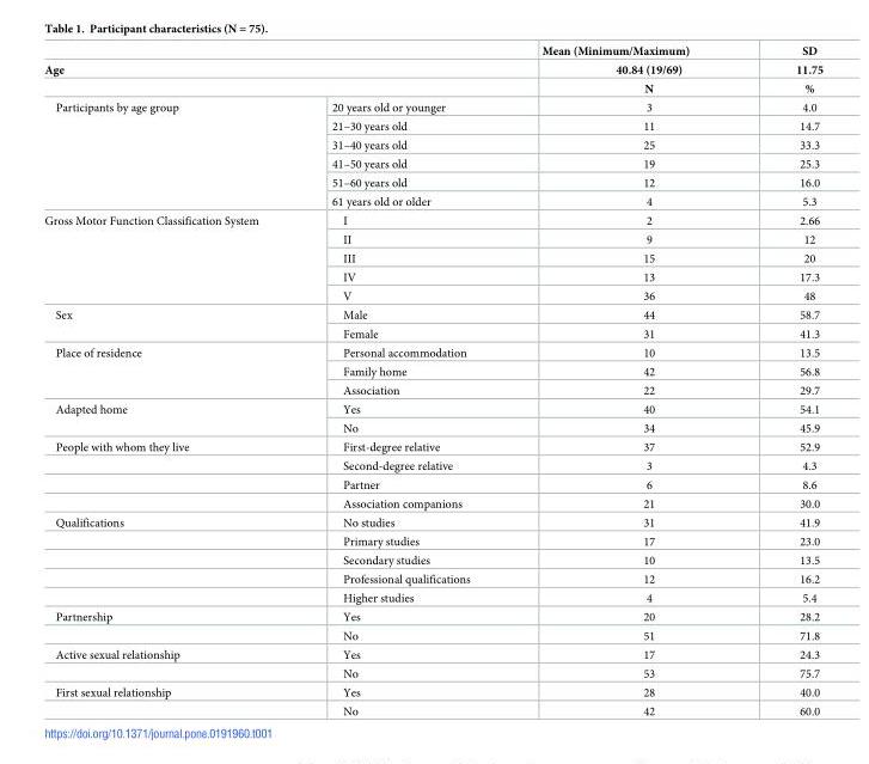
<table><thead><tr><td></td><td></td><td rowspan="3">Mean (Minimum/Maximum) 40.84 (19/69) N</td><td rowspan="3">SD 11.75 %</td></tr><tr><td colspan="2">Age</td></tr><tr><td></td><td></td></tr></thead><tbody><tr><td rowspan="6">Participants by age group</td><td>20 years old or younger</td><td>3</td><td>4.0</td></tr><tr><td>21–30 years old</td><td>11</td><td>14.7</td></tr><tr><td>31–40 years old</td><td>25</td><td>33.3</td></tr><tr><td>41–50 years old</td><td>19</td><td>25.3</td></tr><tr><td>51–60 years old</td><td>12</td><td>16.0</td></tr><tr><td>61 years old or older</td><td>4</td><td>5.3</td></tr><tr><td rowspan="5">Gross Motor Function Classification System</td><td>I</td><td>2</td><td>2.66</td></tr><tr><td>II</td><td>9</td><td>12</td></tr><tr><td>III</td><td>15</td><td>20</td></tr><tr><td>IV</td><td>13</td><td>17.3</td></tr><tr><td>V</td><td>36</td><td>48</td></tr><tr><td rowspan="2">Sex</td><td>Male</td><td>44</td><td>58.7</td></tr><tr><td>Female</td><td>31</td><td>41.3</td></tr><tr><td rowspan="3">Place of residence</td><td>Personal accommodation</td><td>10</td><td>13.5</td></tr><tr><td>Family home</td><td>42</td><td>56.8</td></tr><tr><td>Association</td><td>22</td><td>29.7</td></tr><tr><td rowspan="2">Adapted home</td><td>Yes</td><td>40</td><td>54.1</td></tr><tr><td>No</td><td>34</td><td>45.9</td></tr><tr><td rowspan="4">People with whom they live</td><td>First-degree relative</td><td>37</td><td>52.9</td></tr><tr><td>Second-degree relative</td><td>3</td><td>4.3</td></tr><tr><td>Partner</td><td>6</td><td>8.6</td></tr><tr><td>Association companions</td><td>21</td><td>30.0</td></tr><tr><td rowspan="5">Qualifications</td><td>No studies</td><td>31</td><td>41.9</td></tr><tr><td>Primary studies</td><td>17</td><td>23.0</td></tr><tr><td>Secondary studies</td><td>10</td><td>13.5</td></tr><tr><td>Professional qualifications</td><td>12</td><td>16.2</td></tr><tr><td>Higher studies</td><td>4</td><td>5.4</td></tr><tr><td rowspan="2">Partnership</td><td>Yes</td><td>20</td><td>28.2</td></tr><tr><td>No</td><td>51</td><td>71.8</td></tr><tr><td rowspan="2">Active sexual relationship</td><td>Yes</td><td>17</td><td>24.3</td></tr><tr><td>No</td><td>53</td><td>75.7</td></tr><tr><td rowspan="2">First sexual relationship</td><td>Yes</td><td>28</td><td>40.0</td></tr><tr><td>No</td><td>42</td><td>60.0</td></tr></tbody></table>